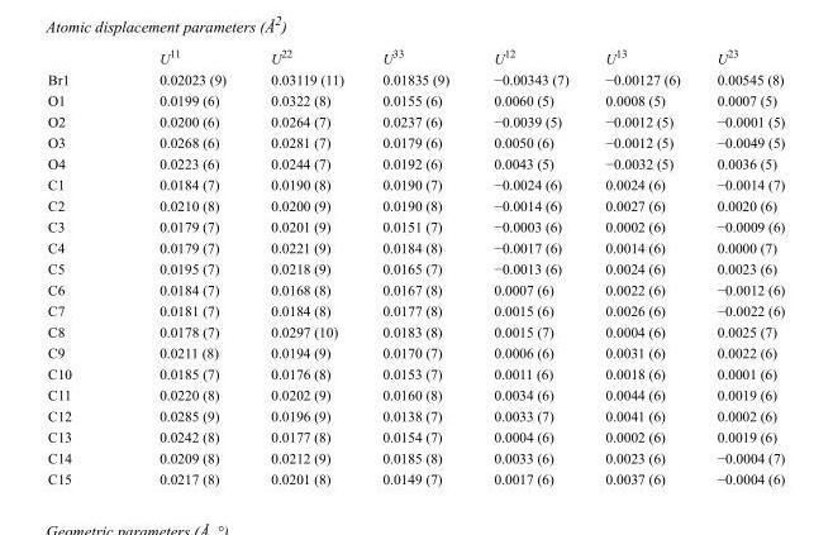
<table><thead><tr><td></td><td>U<sup>11</sup></td><td>U<sup>22</sup></td><td>U<sup>33</sup></td><td>U<sup>12</sup></td><td>U<sup>13</sup></td><td>U<sup>23</sup></td></tr></thead><tbody><tr><td>Br1</td><td>0.02023 (9)</td><td>0.03119 (11)</td><td>0.01835 (9)</td><td>−0.00343 (7)</td><td>−0.00127 (6)</td><td>0.00545 (8)</td></tr><tr><td>O1</td><td>0.0199 (6)</td><td>0.0322 (8)</td><td>0.0155 (6)</td><td>0.0060 (5)</td><td>0.0008 (5)</td><td>0.0007 (5)</td></tr><tr><td>O2</td><td>0.0200 (6)</td><td>0.0264 (7)</td><td>0.0237 (6)</td><td>−0.0039 (5)</td><td>−0.0012 (5)</td><td>−0.0001 (5)</td></tr><tr><td>O3</td><td>0.0268 (6)</td><td>0.0281 (7)</td><td>0.0179 (6)</td><td>0.0050 (6)</td><td>−0.0012 (5)</td><td>−0.0049 (5)</td></tr><tr><td>O4</td><td>0.0223 (6)</td><td>0.0244 (7)</td><td>0.0192 (6)</td><td>0.0043 (5)</td><td>−0.0032 (5)</td><td>0.0036 (5)</td></tr><tr><td>C1</td><td>0.0184 (7)</td><td>0.0190 (8)</td><td>0.0190 (7)</td><td>−0.0024 (6)</td><td>0.0024 (6)</td><td>−0.0014 (7)</td></tr><tr><td>C2</td><td>0.0210 (8)</td><td>0.0200 (9)</td><td>0.0190 (8)</td><td>−0.0014 (6)</td><td>0.0027 (6)</td><td>0.0020 (6)</td></tr><tr><td>C3</td><td>0.0179 (7)</td><td>0.0201 (9)</td><td>0.0151 (7)</td><td>−0.0003 (6)</td><td>0.0002 (6)</td><td>−0.0009 (6)</td></tr><tr><td>C4</td><td>0.0179 (7)</td><td>0.0221 (9)</td><td>0.0184 (8)</td><td>−0.0017 (6)</td><td>0.0014 (6)</td><td>0.0000 (7)</td></tr><tr><td>C5</td><td>0.0195 (7)</td><td>0.0218 (9)</td><td>0.0165 (7)</td><td>−0.0013 (6)</td><td>0.0024 (6)</td><td>0.0023 (6)</td></tr><tr><td>C6</td><td>0.0184 (7)</td><td>0.0168 (8)</td><td>0.0167 (8)</td><td>0.0007 (6)</td><td>0.0022 (6)</td><td>−0.0012 (6)</td></tr><tr><td>C7</td><td>0.0181 (7)</td><td>0.0184 (8)</td><td>0.0177 (8)</td><td>0.0015 (6)</td><td>0.0026 (6)</td><td>−0.0022 (6)</td></tr><tr><td>C8</td><td>0.0178 (7)</td><td>0.0297 (10)</td><td>0.0183 (8)</td><td>0.0015 (7)</td><td>0.0004 (6)</td><td>0.0025 (7)</td></tr><tr><td>C9</td><td>0.0211 (8)</td><td>0.0194 (9)</td><td>0.0170 (7)</td><td>0.0006 (6)</td><td>0.0031 (6)</td><td>0.0022 (6)</td></tr><tr><td>C10</td><td>0.0185 (7)</td><td>0.0176 (8)</td><td>0.0153 (7)</td><td>0.0011 (6)</td><td>0.0018 (6)</td><td>0.0001 (6)</td></tr><tr><td>C11</td><td>0.0220 (8)</td><td>0.0202 (9)</td><td>0.0160 (8)</td><td>0.0034 (6)</td><td>0.0044 (6)</td><td>0.0019 (6)</td></tr><tr><td>C12</td><td>0.0285 (9)</td><td>0.0196 (9)</td><td>0.0138 (7)</td><td>0.0033 (7)</td><td>0.0041 (6)</td><td>0.0002 (6)</td></tr><tr><td>C13</td><td>0.0242 (8)</td><td>0.0177 (8)</td><td>0.0154 (7)</td><td>0.0004 (6)</td><td>0.0002 (6)</td><td>0.0019 (6)</td></tr><tr><td>C14</td><td>0.0209 (8)</td><td>0.0212 (9)</td><td>0.0185 (8)</td><td>0.0033 (6)</td><td>0.0023 (6)</td><td>−0.0004 (7)</td></tr><tr><td>C15</td><td>0.0217 (8)</td><td>0.0201 (8)</td><td>0.0149 (7)</td><td>0.0017 (6)</td><td>0.0037 (6)</td><td>−0.0004 (6)</td></tr></tbody></table>